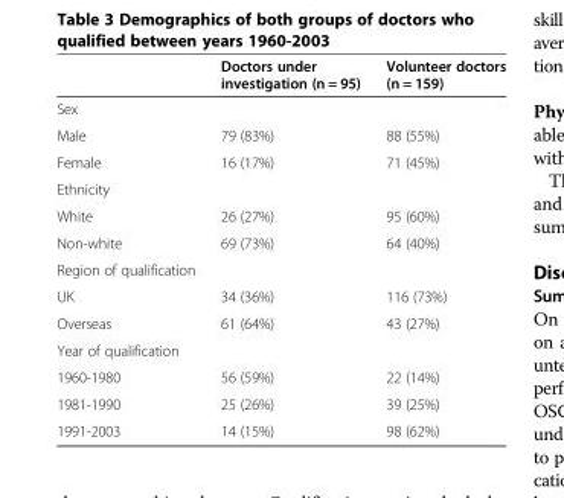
<table><thead><tr><td></td><td>Doctors under investigation (n = 95)</td><td>Volunteer doctors (n = 159)</td></tr></thead><tbody><tr><td colspan="3">Sex</td></tr><tr><td>Male</td><td>79 (83%)</td><td>88 (55%)</td></tr><tr><td>Female</td><td>16 (17%)</td><td>71 (45%)</td></tr><tr><td colspan="3">Ethnicity</td></tr><tr><td>White</td><td>26 (27%)</td><td>95 (60%)</td></tr><tr><td>Non-white</td><td>69 (73%)</td><td>64 (40%)</td></tr><tr><td colspan="3">Region of qualification</td></tr><tr><td>UK</td><td>34 (36%)</td><td>116 (73%)</td></tr><tr><td>Overseas</td><td>61 (64%)</td><td>43 (27%)</td></tr><tr><td colspan="3">Year of qualification</td></tr><tr><td>1960-1980</td><td>56 (59%)</td><td>22 (14%)</td></tr><tr><td>1981-1990</td><td>25 (26%)</td><td>39 (25%)</td></tr><tr><td>1991-2003</td><td>14 (15%)</td><td>98 (62%)</td></tr></tbody></table>